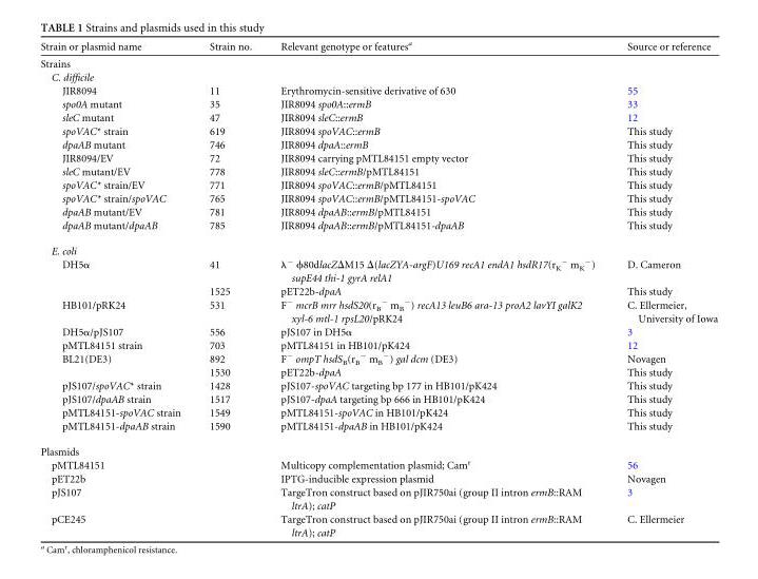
<table><thead><tr><td>Strain or plasmid name</td><td>Strain no.</td><td>Relevant genotype or features<sup>a</sup></td><td>Source or reference</td></tr></thead><tbody><tr><td colspan="4">Strains</td></tr><tr><td colspan="4">C. difficile</td></tr><tr><td>JIR8094</td><td>11</td><td>Erythromycin-sensitive derivative of 630</td><td>55</td></tr><tr><td>spo0A mutant</td><td>35</td><td>JIR8094 spo0A::ermB</td><td>33</td></tr><tr><td>sleC mutant</td><td>47</td><td>JIR8094 sleC::ermB</td><td>12</td></tr><tr><td>spoVAC* strain</td><td>619</td><td>JIR8094 spoVAC::ermB</td><td>This study</td></tr><tr><td>dpaAB mutant</td><td>746</td><td>JIR8094 dpaA::ermB</td><td>This study</td></tr><tr><td>JIR8094/EV</td><td>72</td><td>JIR8094 carrying pMTL84151 empty vector</td><td>This study</td></tr><tr><td>sleC mutant/EV</td><td>778</td><td>JIR8094 sleC::ermB/pMTL84151</td><td>This study</td></tr><tr><td>spoVAC* strain/EV</td><td>771</td><td>JIR8094 spoVAC::ermB/pMTL84151</td><td>This study</td></tr><tr><td>spoVAC* strain/spoVAC</td><td>765</td><td>JIR8094 spoVAC::ermB/pMTL84151-spoVAC</td><td>This study</td></tr><tr><td>dpaAB mutant/EV</td><td>781</td><td>JIR8094 dpaAB::ermB/pMTL84151</td><td>This study</td></tr><tr><td>dpaAB mutant/dpaAB</td><td>785</td><td>JIR8094 dpaAB::ermB/pMTL84151-dpaAB</td><td>This study</td></tr><tr><td colspan="4">E. coli</td></tr><tr><td rowspan="2">DH5α</td><td>41</td><td>λ<sup>−</sup> ϕ80dlacZΔM15 Δ(lacZYA-argF)U169 recA1 endA1 hsdR17(r<sub>K</sub> <sup>−</sup> m<sub>K</sub> <sup>−</sup>) supE44 thi-1 gyrA relA1</td><td>D. Cameron</td></tr><tr><td>1525</td><td>pET22b-dpaA</td><td>This study</td></tr><tr><td>HB101/pRK24</td><td>531</td><td>F<sup>−</sup> mcrB mrr hsdS20(r<sub>B</sub> <sup>−</sup> m<sub>B</sub> <sup>−</sup>) recA13 leuB6 ara-13 proA2 lavYI galK2 xyl-6 mtl-1 rpsL20/pRK24</td><td>C. Ellermeier, University of Iowa</td></tr><tr><td>DH5α/pJS107</td><td>556</td><td>pJS107 in DH5α</td><td>3</td></tr><tr><td>pMTL84151 strain</td><td>703</td><td>pMTL84151 in HB101/pK424</td><td>12</td></tr><tr><td rowspan="2">BL21(DE3)</td><td>892</td><td>F<sup>−</sup> ompT hsdS<sub>B</sub>(r<sub>B</sub> <sup>−</sup> m<sub>B</sub> <sup>−</sup>) gal dcm (DE3)</td><td>Novagen</td></tr><tr><td>1530</td><td>pET22b-dpaA</td><td>This study</td></tr><tr><td>pJS107/spoVAC* strain</td><td>1428</td><td>pJS107-spoVAC targeting bp 177 in HB101/pK424</td><td>This study</td></tr><tr><td>pJS107/dpaAB strain</td><td>1517</td><td>pJS107-dpaA targeting bp 666 in HB101/pK424</td><td>This study</td></tr><tr><td>pMTL84151-spoVAC strain</td><td>1549</td><td>pMTL84151-spoVAC in HB101/pK424</td><td>This study</td></tr><tr><td>pMTL84151-dpaAB strain</td><td>1590</td><td>pMTL84151-dpaAB in HB101/pK424</td><td>This study</td></tr><tr><td colspan="4">Plasmids</td></tr><tr><td>pMTL84151</td><td></td><td>Multicopy complementation plasmid; Cam<sup>r</sup></td><td>56</td></tr><tr><td>pET22b</td><td></td><td>IPTG-inducible expression plasmid</td><td>Novagen</td></tr><tr><td>pJS107</td><td></td><td>TargeTron construct based on pJIR750ai (group II intron ermB::RAM ltrA); catP</td><td>3</td></tr><tr><td>pCE245</td><td></td><td>TargeTron construct based on pJIR750ai (group II intron ermB::RAM ltrA); catP</td><td>C. Ellermeier</td></tr></tbody></table>